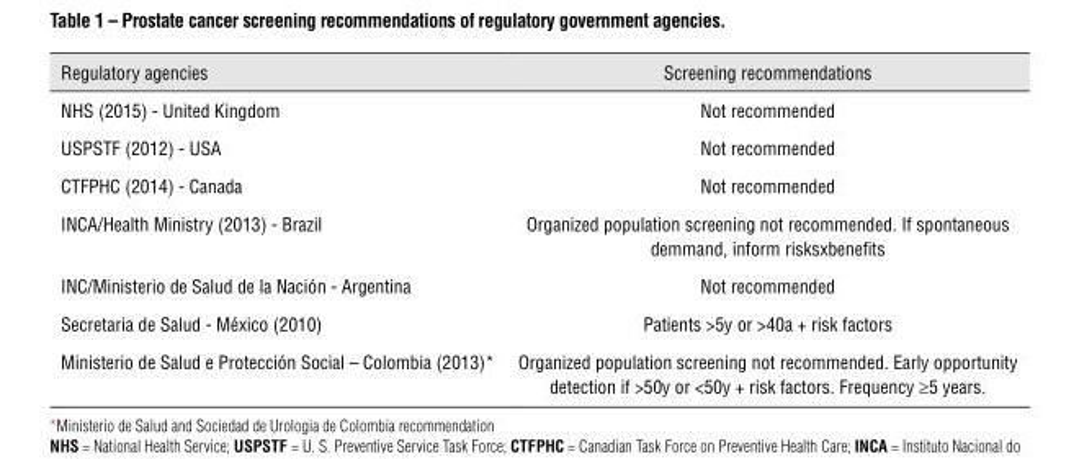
<table><thead><tr><td>Regulatory agencies</td><td>Screening recommendations</td></tr></thead><tbody><tr><td>NHS (2015) - United Kingdom</td><td>Not recommended</td></tr><tr><td>USPSTF (2012) - USA</td><td>Not recommended</td></tr><tr><td>CTFPHC (2014) - Canada</td><td>Not recommended</td></tr><tr><td>INCA/Health Ministry (2013) - Brazil</td><td>Organized population screening not recommended. If spontaneous demmand, inform risksxbenefi ts</td></tr><tr><td>INC/Ministerio de Salud de la Nación - Argentina</td><td>Not recommended</td></tr><tr><td>Secretaria de Salud - México (2010)</td><td>Patients &gt;5y or &gt;40a + risk factors</td></tr><tr><td>Ministerio de Salud e Protección Social – Colombia (2013)*</td><td>Organized population screening not recommended. Early opportunity detection if &gt;50y or &lt;50y + risk factors. Frequency ≥5 years.</td></tr></tbody></table>